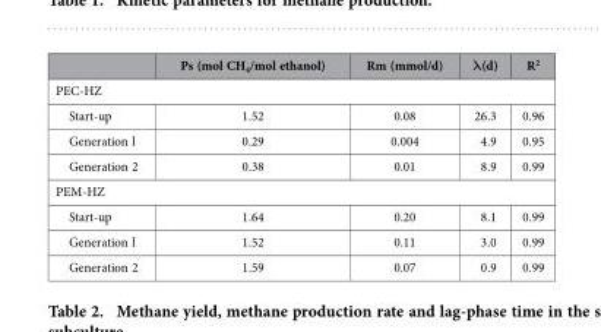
<table><thead><tr><td></td><td>Ps (mol CH<sub>4</sub>/mol ethanol)</td><td>Rm (mmol/d)</td><td>λ(d)</td><td>R<sup>2</sup></td></tr></thead><tbody><tr><td colspan="5">PEC-HZ</td></tr><tr><td>Start-up</td><td>1.52</td><td>0.08</td><td>26.3</td><td>0.96</td></tr><tr><td>Generation l</td><td>0.29</td><td>0.004</td><td>4.9</td><td>0.95</td></tr><tr><td>Generation 2</td><td>0.38</td><td>0.01</td><td>8.9</td><td>0.99</td></tr><tr><td colspan="5">PEM-HZ</td></tr><tr><td>Start-up</td><td>1.64</td><td>0.20</td><td>8.1</td><td>0.99</td></tr><tr><td>Generation l</td><td>1.52</td><td>0.11</td><td>3.0</td><td>0.99</td></tr><tr><td>Generation 2</td><td>1.59</td><td>0.07</td><td>0.9</td><td>0.99</td></tr></tbody></table>